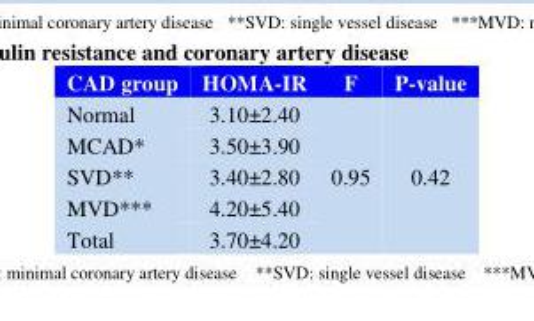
<table><thead><tr><td>CAD group</td><td>HOMA-IR</td><td>F</td><td>P-value</td></tr></thead><tbody><tr><td>Normal</td><td>3.10±2.40</td><td rowspan="5">0.95</td><td rowspan="5">0.42</td></tr><tr><td>MCAD*</td><td>3.50±3.90</td></tr><tr><td>SVD**</td><td>3.40±2.80</td></tr><tr><td>MVD***</td><td>4.20±5.40</td></tr><tr><td>Total</td><td>3.70±4.20</td></tr></tbody></table>